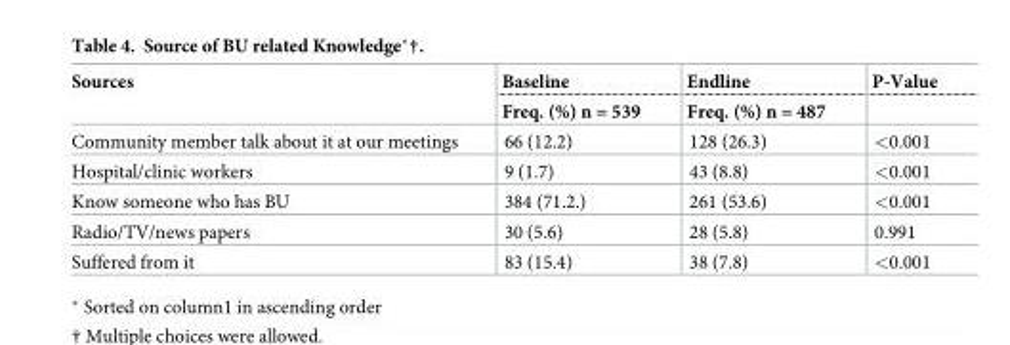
<table><thead><tr><td rowspan="2">Sources</td><td rowspan="2">Baseline Freq. (%) n = 539</td><td rowspan="2">Endline Freq. (%) n = 487</td><td rowspan="2">P-Value</td></tr><tr></tr></thead><tbody><tr><td>Community member talk about it at our meetings</td><td>66 (12.2)</td><td>128 (26.3)</td><td>&lt;0.001</td></tr><tr><td>Hospital/clinic workers</td><td>9 (1.7)</td><td>43 (8.8)</td><td>&lt;0.001</td></tr><tr><td>Know someone who has BU</td><td>384 (71.2.)</td><td>261 (53.6)</td><td>&lt;0.001</td></tr><tr><td>Radio/TV/news papers</td><td>30 (5.6)</td><td>28 (5.8)</td><td>0.991</td></tr><tr><td>Suffered from it</td><td>83 (15.4)</td><td>38 (7.8)</td><td>&lt;0.001</td></tr></tbody></table>